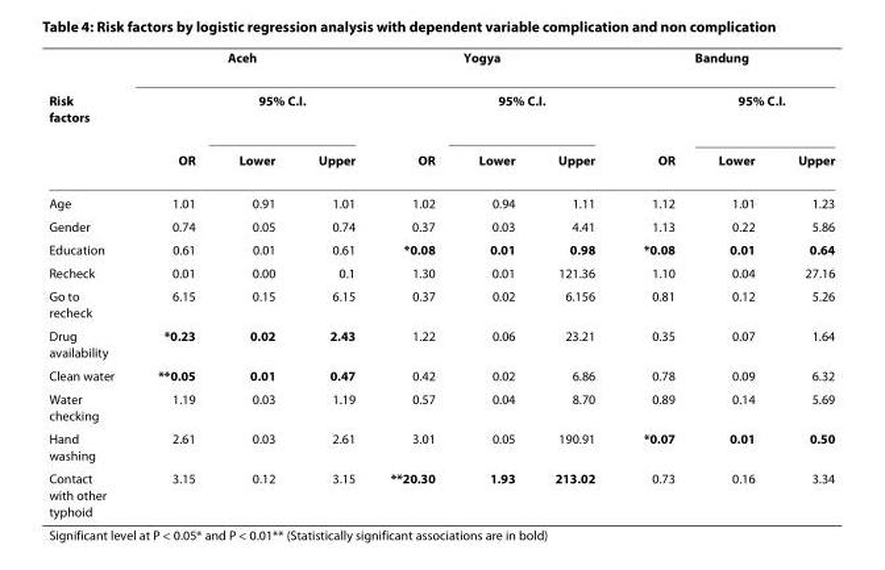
<table><thead><tr><td rowspan="3">Risk factors</td><td colspan="3">Aceh</td><td colspan="3">Yogya</td><td colspan="3">Bandung</td></tr><tr><td rowspan="2">OR</td><td colspan="2">95% C.I.</td><td rowspan="2">OR</td><td colspan="2">95% C.I.</td><td rowspan="2">OR</td><td colspan="2">95% C.I.</td></tr><tr><td>Lower</td><td>Upper</td><td>Lower</td><td>Upper</td><td>Lower</td><td>Upper</td></tr></thead><tbody><tr><td>Age</td><td>1.01</td><td>0.91</td><td>1.01</td><td>1.02</td><td>0.94</td><td>1.11</td><td>1.12</td><td>1.01</td><td>1.23</td></tr><tr><td>Gender</td><td>0.74</td><td>0.05</td><td>0.74</td><td>0.37</td><td>0.03</td><td>4.41</td><td>1.13</td><td>0.22</td><td>5.86</td></tr><tr><td>Education</td><td>0.61</td><td>0.01</td><td>0.61</td><td>*0.08</td><td>0.01</td><td>0.98</td><td>*0.08</td><td>0.01</td><td>0.64</td></tr><tr><td>Recheck</td><td>0.01</td><td>0.00</td><td>0.1</td><td>1.30</td><td>0.01</td><td>121.36</td><td>1.10</td><td>0.04</td><td>27.16</td></tr><tr><td>Go to recheck</td><td>6.15</td><td>0.15</td><td>6.15</td><td>0.37</td><td>0.02</td><td>6.156</td><td>0.81</td><td>0.12</td><td>5.26</td></tr><tr><td>Drug availability</td><td>*0.23</td><td>0.02</td><td>2.43</td><td>1.22</td><td>0.06</td><td>23.21</td><td>0.35</td><td>0.07</td><td>1.64</td></tr><tr><td>Clean water</td><td>**0.05</td><td>0.01</td><td>0.47</td><td>0.42</td><td>0.02</td><td>6.86</td><td>0.78</td><td>0.09</td><td>6.32</td></tr><tr><td>Water checking</td><td>1.19</td><td>0.03</td><td>1.19</td><td>0.57</td><td>0.04</td><td>8.70</td><td>0.89</td><td>0.14</td><td>5.69</td></tr><tr><td>Hand washing</td><td>2.61</td><td>0.03</td><td>2.61</td><td>3.01</td><td>0.05</td><td>190.91</td><td>*0.07</td><td>0.01</td><td>0.50</td></tr><tr><td>Contact with other typhoid</td><td>3.15</td><td>0.12</td><td>3.15</td><td>**20.30</td><td>1.93</td><td>213.02</td><td>0.73</td><td>0.16</td><td>3.34</td></tr></tbody></table>